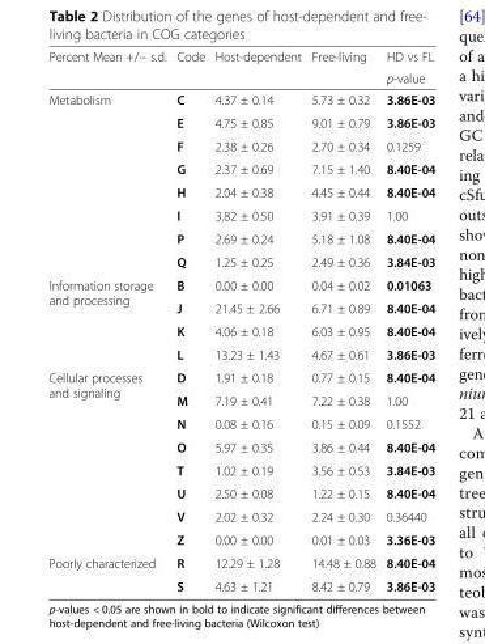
<table><thead><tr><td rowspan="2">Percent Mean +/− s.d.</td><td rowspan="2">Code</td><td rowspan="2">Host-dependent</td><td rowspan="2">Free-living</td><td rowspan="2">HD vs FL p-value</td></tr><tr></tr></thead><tbody><tr><td rowspan="8">Metabolism</td><td>C</td><td>4.37 ± 0.14</td><td>5.73 ± 0.32</td><td>3.86E-03</td></tr><tr><td>E</td><td>4.75 ± 0.85</td><td>9.01 ± 0.79</td><td>3.86E-03</td></tr><tr><td>F</td><td>2.38 ± 0.26</td><td>2.70 ± 0.34</td><td>0.1259</td></tr><tr><td>G</td><td>2.37 ± 0.69</td><td>7.15 ± 1.40</td><td>8.40E-04</td></tr><tr><td>H</td><td>2.04 ± 0.38</td><td>4.45 ± 0.44</td><td>8.40E-04</td></tr><tr><td>I</td><td>3.82 ± 0.50</td><td>3.91 ± 0.39</td><td>1.00</td></tr><tr><td>P</td><td>2.69 ± 0.24</td><td>5.18 ± 1.08</td><td>8.40E-04</td></tr><tr><td>Q</td><td>1.25 ± 0.25</td><td>2.49 ± 0.36</td><td>3.84E-03</td></tr><tr><td rowspan="4">Information storage and processing</td><td>B</td><td>0.00 ± 0.00</td><td>0.04 ± 0.02</td><td>0.01063</td></tr><tr><td>J</td><td>21.45 ± 2.66</td><td>6.71 ± 0.89</td><td>8.40E-04</td></tr><tr><td>K</td><td>4.06 ± 0.18</td><td>6.03 ± 0.95</td><td>8.40E-04</td></tr><tr><td>L</td><td>13.23 ± 1.43</td><td>4.67 ± 0.61</td><td>3.86E-03</td></tr><tr><td rowspan="8">Cellular processes and signaling</td><td>D</td><td>1.91 ± 0.18</td><td>0.77 ± 0.15</td><td>8.40E-04</td></tr><tr><td>M</td><td>7.19 ± 0.41</td><td>7.22 ± 0.38</td><td>1.00</td></tr><tr><td>N</td><td>0.08 ± 0.16</td><td>0.15 ± 0.09</td><td>0.1552</td></tr><tr><td>O</td><td>5.97 ± 0.35</td><td>3.86 ± 0.44</td><td>8.40E-04</td></tr><tr><td>T</td><td>1.02 ± 0.19</td><td>3.56 ± 0.53</td><td>3.84E-03</td></tr><tr><td>U</td><td>2.50 ± 0.08</td><td>1.22 ± 0.15</td><td>8.40E-04</td></tr><tr><td>V</td><td>2.02 ± 0.32</td><td>2.24 ± 0.30</td><td>0.36440</td></tr><tr><td>Z</td><td>0.00 ± 0.00</td><td>0.01 ± 0.03</td><td>3.36E-03</td></tr><tr><td rowspan="2">Poorly characterized</td><td>R</td><td>12.29 ± 1.28</td><td>14.48 ± 0.88</td><td>8.40E-04</td></tr><tr><td>S</td><td>4.63 ± 1.21</td><td>8.42 ± 0.79</td><td>3.86E-03</td></tr></tbody></table>